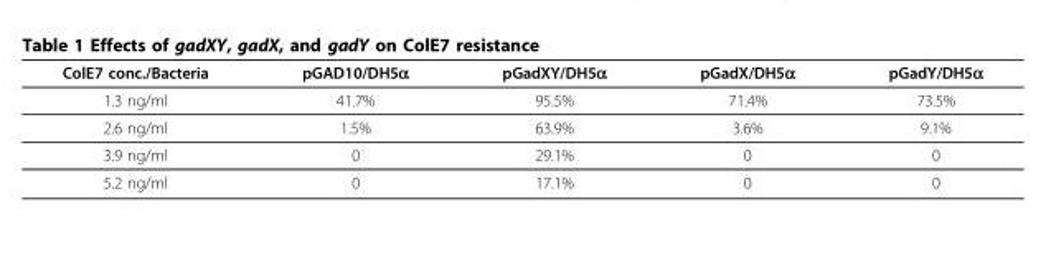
<table><thead><tr><td>ColE7 conc./Bacteria</td><td>pGAD10/DH5α</td><td>pGadXY/DH5α</td><td>pGadX/DH5α</td><td>pGadY/DH5α</td></tr></thead><tbody><tr><td>1.3 ng/ml</td><td>41.7%</td><td>95.5%</td><td>71.4%</td><td>73.5%</td></tr><tr><td>2.6 ng/ml</td><td>1.5%</td><td>63.9%</td><td>3.6%</td><td>9.1%</td></tr><tr><td>3.9 ng/ml</td><td>0</td><td>29.1%</td><td>0</td><td>0</td></tr><tr><td>5.2 ng/ml</td><td>0</td><td>17.1%</td><td>0</td><td>0</td></tr></tbody></table>